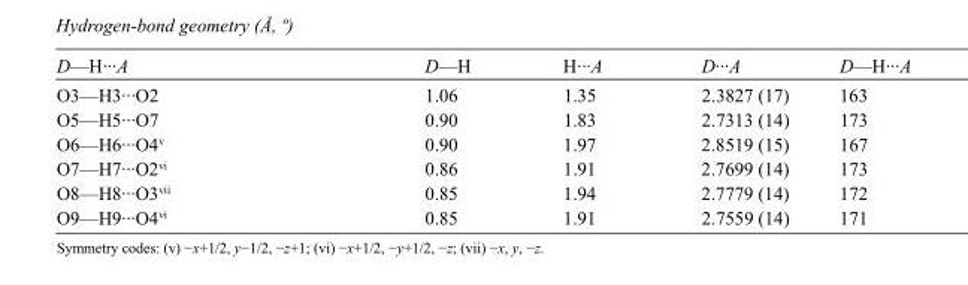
<table><tbody><tr><td>D—H···A</td><td>D—H</td><td>H···A</td><td>D···A</td><td>D—H···A</td></tr><tr><td>O3—H3···O2</td><td>1.06</td><td>1.35</td><td>2.3827 (17)</td><td>163</td></tr><tr><td>O5—H5···O7</td><td>0.90</td><td>1.83</td><td>2.7313 (14)</td><td>173</td></tr><tr><td>O6—H6···O4<sup>v</sup></td><td>0.90</td><td>1.97</td><td>2.8519 (15)</td><td>167</td></tr><tr><td>O7—H7···O2<sup>vi</sup></td><td>0.86</td><td>1.91</td><td>2.7699 (14)</td><td>173</td></tr><tr><td>O8—H8···O3<sup>vii</sup></td><td>0.85</td><td>1.94</td><td>2.7779 (14)</td><td>172</td></tr><tr><td>O9—H9···O4<sup>vi</sup></td><td>0.85</td><td>1.91</td><td>2.7559 (14)</td><td>171</td></tr></tbody></table>